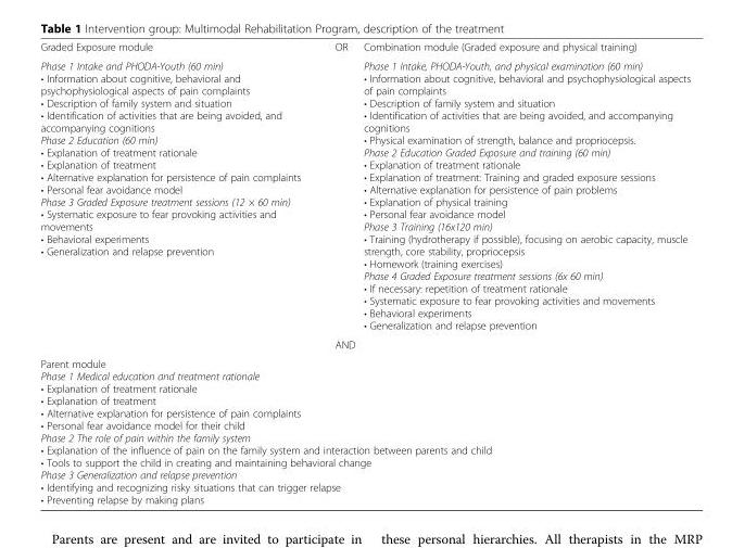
<table><tbody><tr><td>Graded Exposure module</td><td>OR</td><td>Combination module (Graded exposure and physical training)</td></tr><tr><td rowspan="2">Phase 1 Intake and PHODA-Youth (60 min) • Information about cognitive, behavioral and psychophysiological aspects of pain complaints • Description of family system and situation • Identification of activities that are being avoided, and accompanying cognitions Phase 2 Education (60 min) • Explanation of treatment rationale • Explanation of treatment • Alternative explanation for persistence of pain complaints • Personal fear avoidance model Phase 3 Graded Exposure treatment sessions (12 × 60 min) • Systematic exposure to fear provoking activities and movements • Behavioral experiments • Generalization and relapse prevention</td><td></td><td>Phase 1 Intake, PHODA-Youth, and physical examination (60 min) • Information about cognitive, behavioral and psychophysiological aspects of pain complaints • Description of family system and situation • Identification of activities that are being avoided, and accompanying cognitions • Physical examination of strength, balance and propriocepsis. Phase 2 Education Graded Exposure and training (60 min) • Explanation of treatment rationale • Explanation of treatment: Training and graded exposure sessions • Alternative explanation for persistence of pain problems • Explanation of physical training • Personal fear avoidance model Phase 3 Training (16x120 min) • Training (hydrotherapy if possible), focusing on aerobic capacity, muscle strength, core stability, propriocepsis • Homework (training exercises) Phase 4 Graded Exposure treatment sessions (6x 60 min) • If necessary: repetition of treatment rationale • Systematic exposure to fear provoking activities and movements • Behavioral experiments • Generalization and relapse prevention</td></tr><tr><td>AND</td><td></td></tr><tr><td colspan="3">Parent module Phase 1 Medical education and treatment rationale • Explanation of treatment rationale • Explanation of treatment • Alternative explanation for persistence of pain complaints • Personal fear avoidance model for their child Phase 2 The role of pain within the family system • Explanation of the influence of pain on the family system and interaction between parents and child • Tools to support the child in creating and maintaining behavioral change Phase 3 Generalization and relapse prevention • Identifying and recognizing risky situations that can trigger relapse • Preventing relapse by making plans</td></tr></tbody></table>